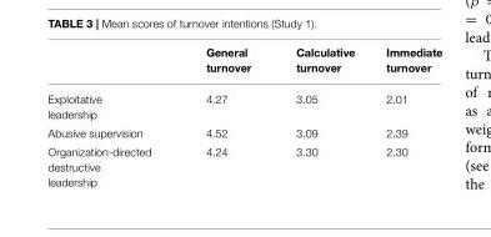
<table><thead><tr><td></td><td>General turnover</td><td>Calculative turnover</td><td>Immediate turnover</td></tr></thead><tbody><tr><td>Exploitative leadership</td><td>4.27</td><td>3.05</td><td>2.01</td></tr><tr><td>Abusive supervision</td><td>4.52</td><td>3.09</td><td>2.39</td></tr><tr><td>Organization-directed destructive leadership</td><td>4.24</td><td>3.30</td><td>2.30</td></tr></tbody></table>